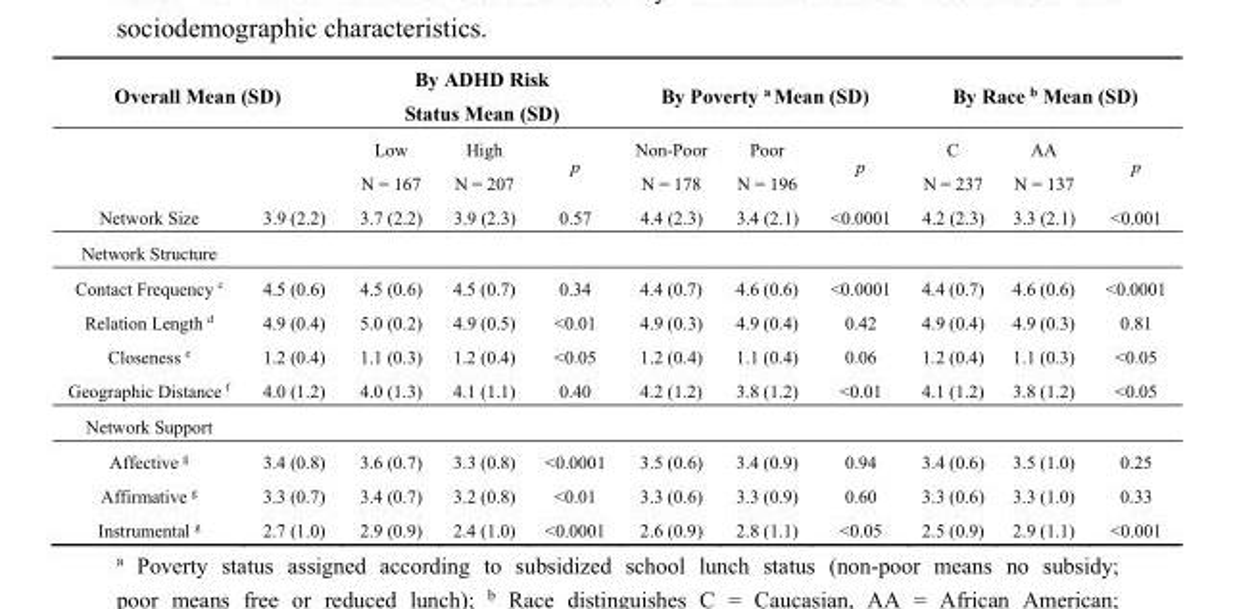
<table><thead><tr><td colspan="2">Overall Mean (SD)</td><td colspan="3">By ADHD Risk Status Mean (SD)</td><td colspan="3">By Poverty <sup>a</sup> Mean (SD)</td><td colspan="3">By Race <sup>b</sup> Mean (SD)</td></tr><tr><td></td><td></td><td>Low N = 167</td><td>High N = 207</td><td>p</td><td>Non-Poor N = 178</td><td>Poor N = 196</td><td>p</td><td>C N = 237</td><td>AA N = 137</td><td>p</td></tr></thead><tbody><tr><td>Network Size</td><td>3.9 (2.2)</td><td>3.7 (2.2)</td><td>3.9 (2.3)</td><td>0.57</td><td>4.4 (2.3)</td><td>3.4 (2.1)</td><td>&lt;0.0001</td><td>4.2 (2.3)</td><td>3.3 (2.1)</td><td>&lt;0.001</td></tr><tr><td colspan="11">Network Structure</td></tr><tr><td>Contact Frequency <sup>c</sup></td><td>4.5 (0.6)</td><td>4.5 (0.6)</td><td>4.5 (0.7)</td><td>0.34</td><td>4.4 (0.7)</td><td>4.6 (0.6)</td><td>&lt;0.0001</td><td>4.4 (0.7)</td><td>4.6 (0.6)</td><td>&lt;0.0001</td></tr><tr><td>Relation Length <sup>d</sup></td><td>4.9 (0.4)</td><td>5.0 (0.2)</td><td>4.9 (0.5)</td><td>&lt;0.01</td><td>4.9 (0.3)</td><td>4.9 (0.4)</td><td>0.42</td><td>4.9 (0.4)</td><td>4.9 (0.3)</td><td>0.81</td></tr><tr><td>Closeness <sup>e</sup></td><td>1.2 (0.4)</td><td>1.1 (0.3)</td><td>1.2 (0.4)</td><td>&lt;0.05</td><td>1.2 (0.4)</td><td>1.1 (0.4)</td><td>0.06</td><td>1.2 (0.4)</td><td>1.1 (0.3)</td><td>&lt;0.05</td></tr><tr><td>Geographic Distance <sup>f</sup></td><td>4.0 (1.2)</td><td>4.0 (1.3)</td><td>4.1 (1.1)</td><td>0.40</td><td>4.2 (1.2)</td><td>3.8 (1.2)</td><td>&lt;0.01</td><td>4.1 (1.2)</td><td>3.8 (1.2)</td><td>&lt;0.05</td></tr><tr><td colspan="11">Network Support</td></tr><tr><td>Affective <sup>g</sup></td><td>3.4 (0.8)</td><td>3.6 (0.7)</td><td>3.3 (0.8)</td><td>&lt;0.0001</td><td>3.5 (0.6)</td><td>3.4 (0.9)</td><td>0.94</td><td>3.4 (0.6)</td><td>3.5 (1.0)</td><td>0.25</td></tr><tr><td>Affirmative <sup>g</sup></td><td>3.3 (0.7)</td><td>3.4 (0.7)</td><td>3.2 (0.8)</td><td>&lt;0.01</td><td>3.3 (0.6)</td><td>3.3 (0.9)</td><td>0.60</td><td>3.3 (0.6)</td><td>3.3 (1.0)</td><td>0.33</td></tr><tr><td>Instrumental <sup>g</sup></td><td>2.7 (1.0)</td><td>2.9 (0.9)</td><td>2.4 (1.0)</td><td>&lt;0.0001</td><td>2.6 (0.9)</td><td>2.8 (1.1)</td><td>&lt;0.05</td><td>2.5 (0.9)</td><td>2.9 (1.1)</td><td>&lt;0.001</td></tr></tbody></table>